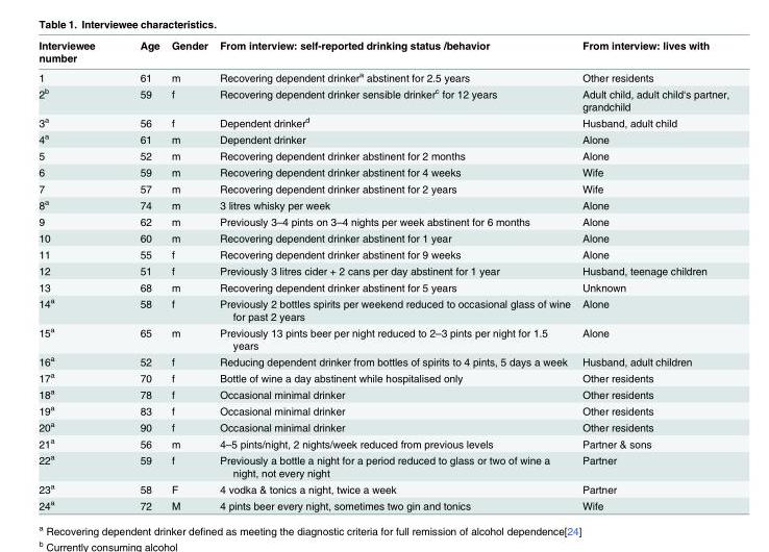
<table><thead><tr><td>Interviewee number</td><td>Age</td><td>Gender</td><td>From interview: self-reported drinking status /behavior</td><td>From interview: lives with</td></tr></thead><tbody><tr><td>1</td><td>61</td><td>m</td><td>Recovering dependent drinker<sup>a</sup> abstinent for 2.5 years</td><td>Other residents</td></tr><tr><td>2<sup>b</sup></td><td>59</td><td>f</td><td>Recovering dependent drinker sensible drinker<sup>c</sup> for 12 years</td><td>Adult child, adult child‘s partner, grandchild</td></tr><tr><td>3<sup>a</sup></td><td>56</td><td>f</td><td>Dependent drinker<sup>d</sup></td><td>Husband, adult child</td></tr><tr><td>4<sup>a</sup></td><td>61</td><td>m</td><td>Dependent drinker</td><td>Alone</td></tr><tr><td>5</td><td>52</td><td>m</td><td>Recovering dependent drinker abstinent for 2 months</td><td>Alone</td></tr><tr><td>6</td><td>59</td><td>m</td><td>Recovering dependent drinker abstinent for 4 weeks</td><td>Wife</td></tr><tr><td>7</td><td>57</td><td>m</td><td>Recovering dependent drinker abstinent for 2 years</td><td>Wife</td></tr><tr><td>8<sup>a</sup></td><td>74</td><td>m</td><td>3 litres whisky per week</td><td>Alone</td></tr><tr><td>9</td><td>62</td><td>m</td><td>Previously 3–4 pints on 3–4 nights per week abstinent for 6 months</td><td>Alone</td></tr><tr><td>10</td><td>60</td><td>m</td><td>Recovering dependent drinker abstinent for 1 year</td><td>Alone</td></tr><tr><td>11</td><td>55</td><td>f</td><td>Recovering dependent drinker abstinent for 9 weeks</td><td>Alone</td></tr><tr><td>12</td><td>51</td><td>f</td><td>Previously 3 litres cider + 2 cans per day abstinent for 1 year</td><td>Husband, teenage children</td></tr><tr><td>13</td><td>68</td><td>m</td><td>Recovering dependent drinker abstinent for 5 years</td><td>Unknown</td></tr><tr><td>14<sup>a</sup></td><td>58</td><td>f</td><td>Previously 2 bottles spirits per weekend reduced to occasional glass of wine for past 2 years</td><td>Alone</td></tr><tr><td>15<sup>a</sup></td><td>65</td><td>m</td><td>Previously 13 pints beer per night reduced to 2–3 pints per night for 1.5 years</td><td>Alone</td></tr><tr><td>16<sup>a</sup></td><td>52</td><td>f</td><td>Reducing dependent drinker from bottles of spirits to 4 pints, 5 days a week</td><td>Husband, adult children</td></tr><tr><td>17<sup>a</sup></td><td>70</td><td>f</td><td>Bottle of wine a day abstinent while hospitalised only</td><td>Other residents</td></tr><tr><td>18<sup>a</sup></td><td>78</td><td>f</td><td>Occasional minimal drinker</td><td>Other residents</td></tr><tr><td>19<sup>a</sup></td><td>83</td><td>f</td><td>Occasional minimal drinker</td><td>Other residents</td></tr><tr><td>20<sup>a</sup></td><td>90</td><td>f</td><td>Occasional minimal drinker</td><td>Other residents</td></tr><tr><td>21<sup>a</sup></td><td>56</td><td>m</td><td>4–5 pints/night, 2 nights/week reduced from previous levels</td><td>Partner &amp; sons</td></tr><tr><td>22<sup>a</sup></td><td>59</td><td>f</td><td>Previously a bottle a night for a period reduced to glass or two of wine a night, not every night</td><td>Partner</td></tr><tr><td>23<sup>a</sup></td><td>58</td><td>F</td><td>4 vodka &amp; tonics a night, twice a week</td><td>Partner</td></tr><tr><td>24<sup>a</sup></td><td>72</td><td>M</td><td>4 pints beer every night, sometimes two gin and tonics</td><td>Wife</td></tr></tbody></table>